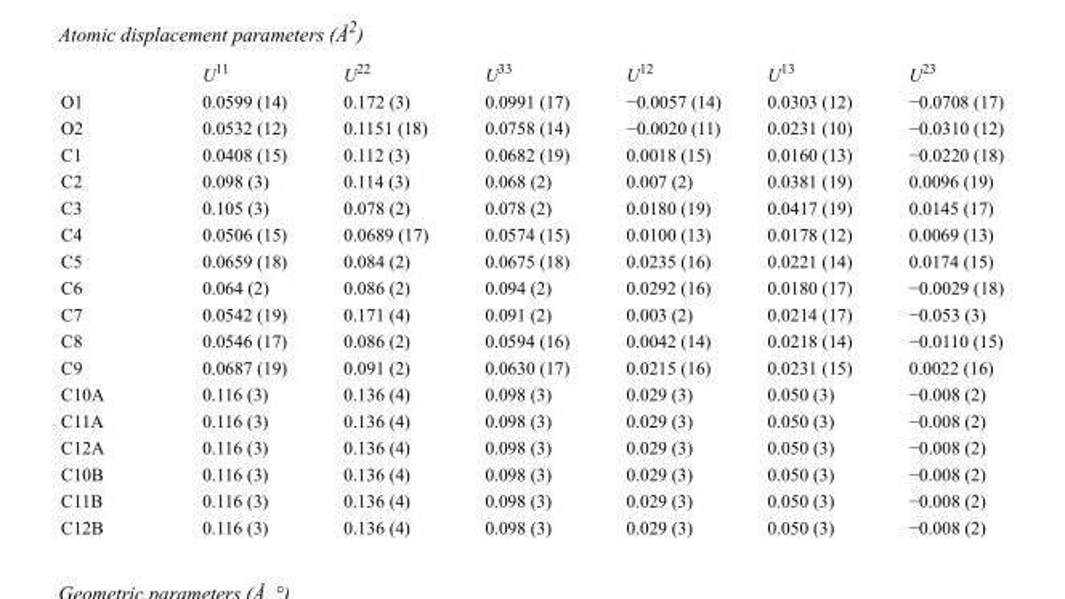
<table><thead><tr><td></td><td>U<sup>11</sup></td><td>U<sup>22</sup></td><td>U<sup>33</sup></td><td>U<sup>12</sup></td><td>U<sup>13</sup></td><td>U<sup>23</sup></td></tr></thead><tbody><tr><td>O1</td><td>0.0599 (14)</td><td>0.172 (3)</td><td>0.0991 (17)</td><td>−0.0057 (14)</td><td>0.0303 (12)</td><td>−0.0708 (17)</td></tr><tr><td>O2</td><td>0.0532 (12)</td><td>0.1151 (18)</td><td>0.0758 (14)</td><td>−0.0020 (11)</td><td>0.0231 (10)</td><td>−0.0310 (12)</td></tr><tr><td>C1</td><td>0.0408 (15)</td><td>0.112 (3)</td><td>0.0682 (19)</td><td>0.0018 (15)</td><td>0.0160 (13)</td><td>−0.0220 (18)</td></tr><tr><td>C2</td><td>0.098 (3)</td><td>0.114 (3)</td><td>0.068 (2)</td><td>0.007 (2)</td><td>0.0381 (19)</td><td>0.0096 (19)</td></tr><tr><td>C3</td><td>0.105 (3)</td><td>0.078 (2)</td><td>0.078 (2)</td><td>0.0180 (19)</td><td>0.0417 (19)</td><td>0.0145 (17)</td></tr><tr><td>C4</td><td>0.0506 (15)</td><td>0.0689 (17)</td><td>0.0574 (15)</td><td>0.0100 (13)</td><td>0.0178 (12)</td><td>0.0069 (13)</td></tr><tr><td>C5</td><td>0.0659 (18)</td><td>0.084 (2)</td><td>0.0675 (18)</td><td>0.0235 (16)</td><td>0.0221 (14)</td><td>0.0174 (15)</td></tr><tr><td>C6</td><td>0.064 (2)</td><td>0.086 (2)</td><td>0.094 (2)</td><td>0.0292 (16)</td><td>0.0180 (17)</td><td>−0.0029 (18)</td></tr><tr><td>C7</td><td>0.0542 (19)</td><td>0.171 (4)</td><td>0.091 (2)</td><td>0.003 (2)</td><td>0.0214 (17)</td><td>−0.053 (3)</td></tr><tr><td>C8</td><td>0.0546 (17)</td><td>0.086 (2)</td><td>0.0594 (16)</td><td>0.0042 (14)</td><td>0.0218 (14)</td><td>−0.0110 (15)</td></tr><tr><td>C9</td><td>0.0687 (19)</td><td>0.091 (2)</td><td>0.0630 (17)</td><td>0.0215 (16)</td><td>0.0231 (15)</td><td>0.0022 (16)</td></tr><tr><td>C10A</td><td>0.116 (3)</td><td>0.136 (4)</td><td>0.098 (3)</td><td>0.029 (3)</td><td>0.050 (3)</td><td>−0.008 (2)</td></tr><tr><td>C11A</td><td>0.116 (3)</td><td>0.136 (4)</td><td>0.098 (3)</td><td>0.029 (3)</td><td>0.050 (3)</td><td>−0.008 (2)</td></tr><tr><td>C12A</td><td>0.116 (3)</td><td>0.136 (4)</td><td>0.098 (3)</td><td>0.029 (3)</td><td>0.050 (3)</td><td>−0.008 (2)</td></tr><tr><td>C10B</td><td>0.116 (3)</td><td>0.136 (4)</td><td>0.098 (3)</td><td>0.029 (3)</td><td>0.050 (3)</td><td>−0.008 (2)</td></tr><tr><td>C11B</td><td>0.116 (3)</td><td>0.136 (4)</td><td>0.098 (3)</td><td>0.029 (3)</td><td>0.050 (3)</td><td>−0.008 (2)</td></tr><tr><td>C12B</td><td>0.116 (3)</td><td>0.136 (4)</td><td>0.098 (3)</td><td>0.029 (3)</td><td>0.050 (3)</td><td>−0.008 (2)</td></tr></tbody></table>